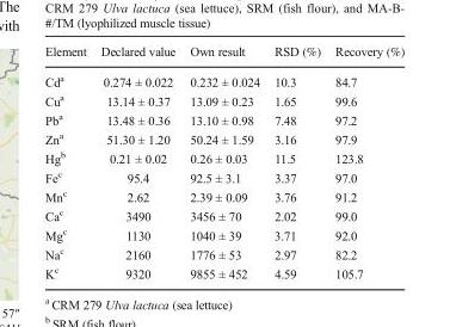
<table><thead><tr><td>Element</td><td>Declared value</td><td>Own result</td><td>RSD (%)</td><td>Recovery (%)</td></tr></thead><tbody><tr><td>Cd<sup>a</sup></td><td>0.274 ± 0.022</td><td>0.232 ± 0.024</td><td>10.3</td><td>84.7</td></tr><tr><td>Cu<sup>a</sup></td><td>13.14 ± 0.37</td><td>13.09 ± 0.23</td><td>1.65</td><td>99.6</td></tr><tr><td>Pb<sup>a</sup></td><td>13.48 ± 0.36</td><td>13.10 ± 0.98</td><td>7.48</td><td>97.2</td></tr><tr><td>Zn<sup>a</sup></td><td>51.30 ± 1.20</td><td>50.24 ± 1.59</td><td>3.16</td><td>97.9</td></tr><tr><td>Hg<sup>b</sup></td><td>0.21 ± 0.02</td><td>0.26 ± 0.03</td><td>11.5</td><td>123.8</td></tr><tr><td>Fe<sup>c</sup></td><td>95.4</td><td>92.5 ± 3.1</td><td>3.37</td><td>97.0</td></tr><tr><td>Mn<sup>c</sup></td><td>2.62</td><td>2.39 ± 0.09</td><td>3.76</td><td>91.2</td></tr><tr><td>Ca<sup>c</sup></td><td>3490</td><td>3456 ± 70</td><td>2.02</td><td>99.0</td></tr><tr><td>Mg<sup>c</sup></td><td>1130</td><td>1040 ± 39</td><td>3.71</td><td>92.0</td></tr><tr><td>Na<sup>c</sup></td><td>2160</td><td>1776 ± 53</td><td>2.97</td><td>82.2</td></tr><tr><td>K<sup>c</sup></td><td>9320</td><td>9855 ± 452</td><td>4.59</td><td>105.7</td></tr></tbody></table>